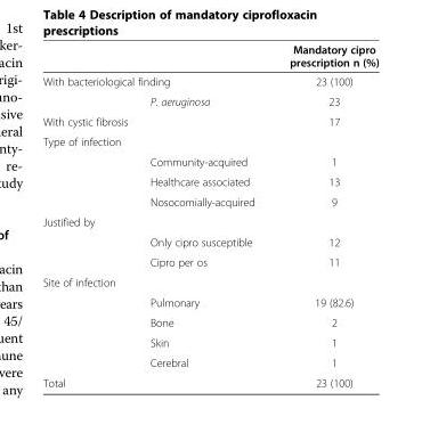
<table><thead><tr><td></td><td></td><td>Mandatory cipro prescription n (%)</td></tr></thead><tbody><tr><td colspan="2">With bacteriological finding</td><td>23 (100)</td></tr><tr><td></td><td>P. aeruginosa</td><td>23</td></tr><tr><td colspan="2">With cystic fibrosis</td><td>17</td></tr><tr><td colspan="3">Type of infection</td></tr><tr><td></td><td>Community-acquired</td><td>1</td></tr><tr><td></td><td>Healthcare associated</td><td>13</td></tr><tr><td></td><td>Nosocomially-acquired</td><td>9</td></tr><tr><td colspan="3">Justified by</td></tr><tr><td></td><td>Only cipro susceptible</td><td>12</td></tr><tr><td></td><td>Cipro per os</td><td>11</td></tr><tr><td colspan="3">Site of infection</td></tr><tr><td></td><td>Pulmonary</td><td>19 (82.6)</td></tr><tr><td></td><td>Bone</td><td>2</td></tr><tr><td></td><td>Skin</td><td>1</td></tr><tr><td></td><td>Cerebral</td><td>1</td></tr><tr><td>Total</td><td></td><td>23 (100)</td></tr></tbody></table>